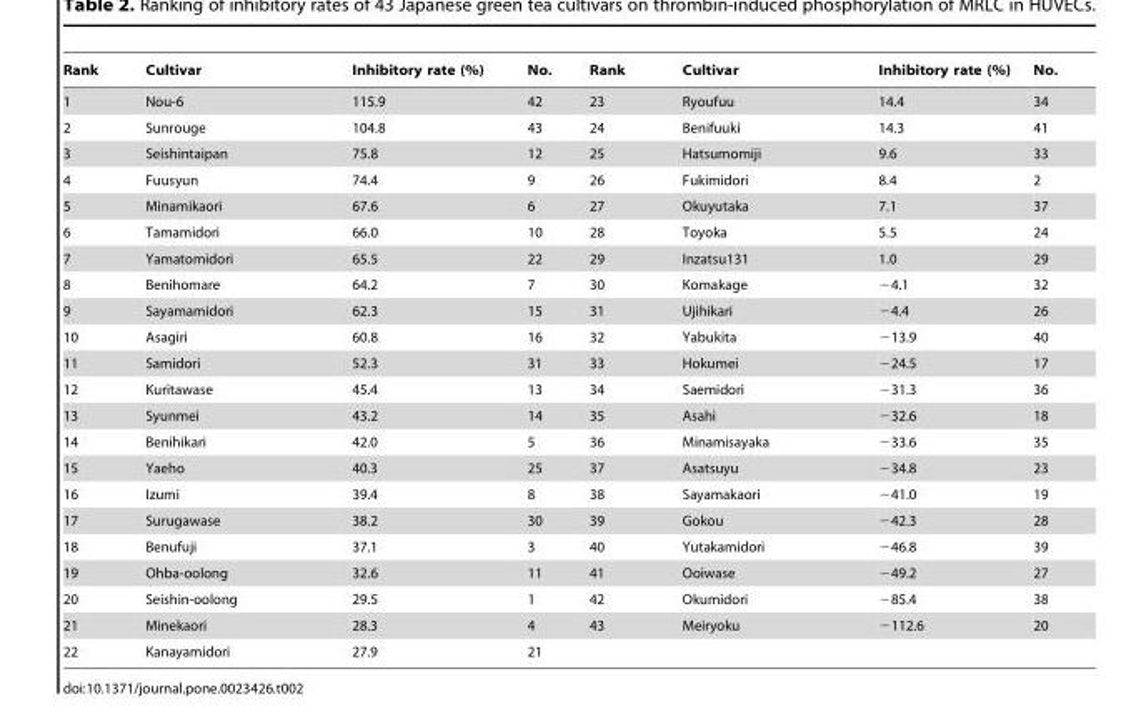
<table><thead><tr><td>Rank</td><td>Cultivar</td><td>Inhibitory rate (%)</td><td>No.</td><td>Rank</td><td>Cultivar</td><td>Inhibitory rate (%)</td><td>No.</td></tr></thead><tbody><tr><td>1</td><td>Nou-6</td><td>115.9</td><td>42</td><td>23</td><td>Ryoufuu</td><td>14.4</td><td>34</td></tr><tr><td>2</td><td>Sunrouge</td><td>104.8</td><td>43</td><td>24</td><td>Benifuuki</td><td>14.3</td><td>41</td></tr><tr><td>3</td><td>Seishintaipan</td><td>75.8</td><td>12</td><td>25</td><td>Hatsumomiji</td><td>9.6</td><td>33</td></tr><tr><td>4</td><td>Fuusyun</td><td>74.4</td><td>9</td><td>26</td><td>Fukimidori</td><td>8.4</td><td>2</td></tr><tr><td>5</td><td>Minamikaori</td><td>67.6</td><td>6</td><td>27</td><td>Okuyutaka</td><td>7.1</td><td>37</td></tr><tr><td>6</td><td>Tamamidori</td><td>66.0</td><td>10</td><td>28</td><td>Toyoka</td><td>5.5</td><td>24</td></tr><tr><td>7</td><td>Yamatomidori</td><td>65.5</td><td>22</td><td>29</td><td>Inzatsu131</td><td>1.0</td><td>29</td></tr><tr><td>8</td><td>Benihomare</td><td>64.2</td><td>7</td><td>30</td><td>Komakage</td><td>−4.1</td><td>32</td></tr><tr><td>9</td><td>Sayamamidori</td><td>62.3</td><td>15</td><td>31</td><td>Ujihikari</td><td>−4.4</td><td>26</td></tr><tr><td>10</td><td>Asagiri</td><td>60.8</td><td>16</td><td>32</td><td>Yabukita</td><td>−13.9</td><td>40</td></tr><tr><td>11</td><td>Samidori</td><td>52.3</td><td>31</td><td>33</td><td>Hokumei</td><td>−24.5</td><td>17</td></tr><tr><td>12</td><td>Kuritawase</td><td>45.4</td><td>13</td><td>34</td><td>Saemidori</td><td>−31.3</td><td>36</td></tr><tr><td>13</td><td>Syunmei</td><td>43.2</td><td>14</td><td>35</td><td>Asahi</td><td>−32.6</td><td>18</td></tr><tr><td>14</td><td>Benihikari</td><td>42.0</td><td>5</td><td>36</td><td>Minamisayaka</td><td>−33.6</td><td>35</td></tr><tr><td>15</td><td>Yaeho</td><td>40.3</td><td>25</td><td>37</td><td>Asatsuyu</td><td>−34.8</td><td>23</td></tr><tr><td>16</td><td>Izumi</td><td>39.4</td><td>8</td><td>38</td><td>Sayamakaori</td><td>−41.0</td><td>19</td></tr><tr><td>17</td><td>Surugawase</td><td>38.2</td><td>30</td><td>39</td><td>Gokou</td><td>−42.3</td><td>28</td></tr><tr><td>18</td><td>Benufuji</td><td>37.1</td><td>3</td><td>40</td><td>Yutakamidori</td><td>−46.8</td><td>39</td></tr><tr><td>19</td><td>Ohba-oolong</td><td>32.6</td><td>11</td><td>41</td><td>Ooiwase</td><td>−49.2</td><td>27</td></tr><tr><td>20</td><td>Seishin-oolong</td><td>29.5</td><td>1</td><td>42</td><td>Okumidori</td><td>−85.4</td><td>38</td></tr><tr><td>21</td><td>Minekaori</td><td>28.3</td><td>4</td><td>43</td><td>Meiryoku</td><td>−112.6</td><td>20</td></tr><tr><td>22</td><td>Kanayamidori</td><td>27.9</td><td>21</td><td></td><td></td><td></td><td></td></tr></tbody></table>